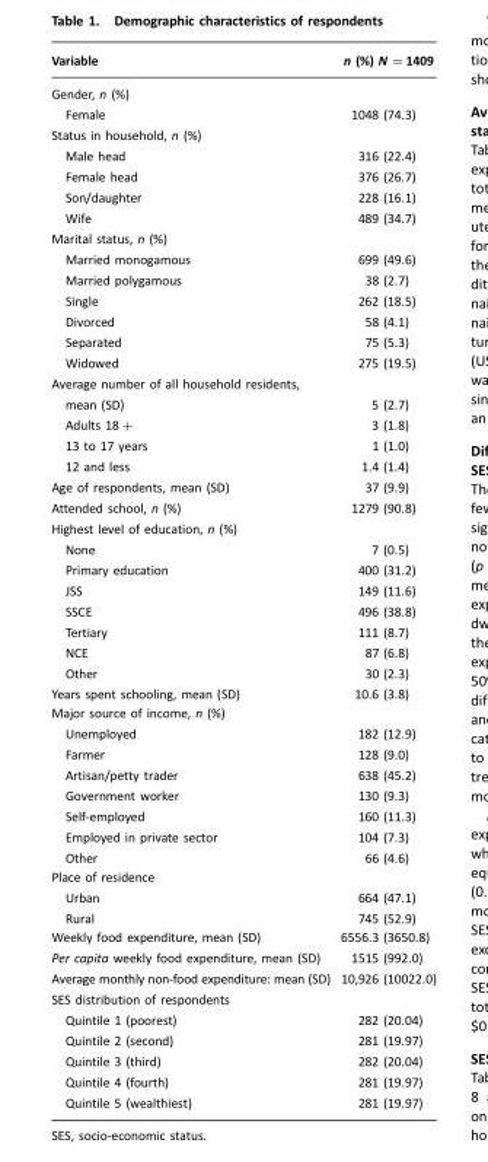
<table><thead><tr><td>Variable</td><td>n (%) N =1409</td></tr></thead><tbody><tr><td colspan="2">Gender, n (%)</td></tr><tr><td>Female</td><td>1048 (74.3)</td></tr><tr><td colspan="2">Status in household, n (%)</td></tr><tr><td>Male head</td><td>316 (22.4)</td></tr><tr><td>Female head</td><td>376 (26.7)</td></tr><tr><td>Son/daughter</td><td>228 (16.1)</td></tr><tr><td>Wife</td><td>489 (34.7)</td></tr><tr><td colspan="2">Marital status, n (%)</td></tr><tr><td>Married monogamous</td><td>699 (49.6)</td></tr><tr><td>Married polygamous</td><td>38 (2.7)</td></tr><tr><td>Single</td><td>262 (18.5)</td></tr><tr><td>Divorced</td><td>58 (4.1)</td></tr><tr><td>Separated</td><td>75 (5.3)</td></tr><tr><td>Widowed</td><td>275 (19.5)</td></tr><tr><td>Average number of all household residents, mean (SD)</td><td>5 (2.7)</td></tr><tr><td>Adults 18+</td><td>3 (1.8)</td></tr><tr><td>13 to 17 years</td><td>1 (1.0)</td></tr><tr><td>12 and less</td><td>1.4 (1.4)</td></tr><tr><td>Age of respondents, mean (SD)</td><td>37 (9.9)</td></tr><tr><td>Attended school, n (%)</td><td>1279 (90.8)</td></tr><tr><td colspan="2">Highest level of education, n (%)</td></tr><tr><td>None</td><td>7 (0.5)</td></tr><tr><td>Primary education</td><td>400 (31.2)</td></tr><tr><td>JSS</td><td>149 (11.6)</td></tr><tr><td>SSCE</td><td>496 (38.8)</td></tr><tr><td>Tertiary</td><td>111 (8.7)</td></tr><tr><td>NCE</td><td>87 (6.8)</td></tr><tr><td>Other</td><td>30 (2.3)</td></tr><tr><td>Years spent schooling, mean (SD)</td><td>10.6 (3.8)</td></tr><tr><td colspan="2">Major source of income, n (%)</td></tr><tr><td>Unemployed</td><td>182 (12.9)</td></tr><tr><td>Farmer</td><td>128 (9.0)</td></tr><tr><td>Artisan/petty trader</td><td>638 (45.2)</td></tr><tr><td>Government worker</td><td>130 (9.3)</td></tr><tr><td>Self-employed</td><td>160 (11.3)</td></tr><tr><td>Employed in private sector</td><td>104 (7.3)</td></tr><tr><td>Other</td><td>66 (4.6)</td></tr><tr><td colspan="2">Place of residence</td></tr><tr><td>Urban</td><td>664 (47.1)</td></tr><tr><td>Rural</td><td>745 (52.9)</td></tr><tr><td>Weekly food expenditure, mean (SD)</td><td>6556.3 (3650.8)</td></tr><tr><td>Per capita weekly food expenditure, mean (SD)</td><td>1515 (992.0)</td></tr><tr><td>Average monthly non-food expenditure: mean (SD)</td><td>10,926 (10022.0)</td></tr><tr><td colspan="2">SES distribution of respondents</td></tr><tr><td>Quintile 1 (poorest)</td><td>282 (20.04)</td></tr><tr><td>Quintile 2 (second)</td><td>281 (19.97)</td></tr><tr><td>Quintile 3 (third)</td><td>282 (20.04)</td></tr><tr><td>Quintile 4 (fourth)</td><td>281 (19.97)</td></tr><tr><td>Quintile 5 (wealthiest)</td><td>281 (19.97)</td></tr></tbody></table>